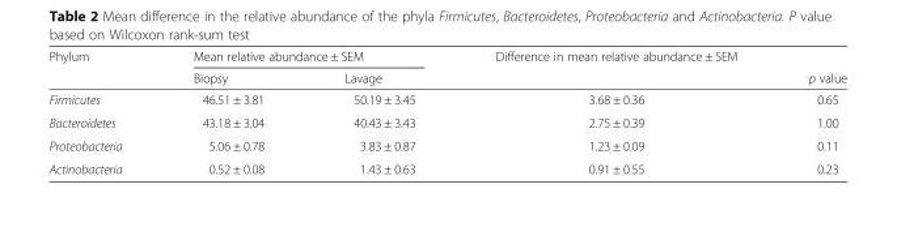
<table><thead><tr><td rowspan="2">Phylum</td><td colspan="2">Mean relative abundance ± SEM</td><td rowspan="2">Difference in mean relative abundance ± SEM</td><td rowspan="2">p value</td></tr><tr><td>Biopsy</td><td>Lavage</td></tr></thead><tbody><tr><td>Firmicutes</td><td>46.51 ± 3.81</td><td>50.19 ± 3.45</td><td>3.68 ± 0.36</td><td>0.65</td></tr><tr><td>Bacteroidetes</td><td>43.18 ± 3.04</td><td>40.43 ± 3.43</td><td>2.75 ± 0.39</td><td>1.00</td></tr><tr><td>Proteobacteria</td><td>5.06 ± 0.78</td><td>3.83 ± 0.87</td><td>1.23 ± 0.09</td><td>0.11</td></tr><tr><td>Actinobacteria</td><td>0.52 ± 0.08</td><td>1.43 ± 0.63</td><td>0.91 ± 0.55</td><td>0.23</td></tr></tbody></table>